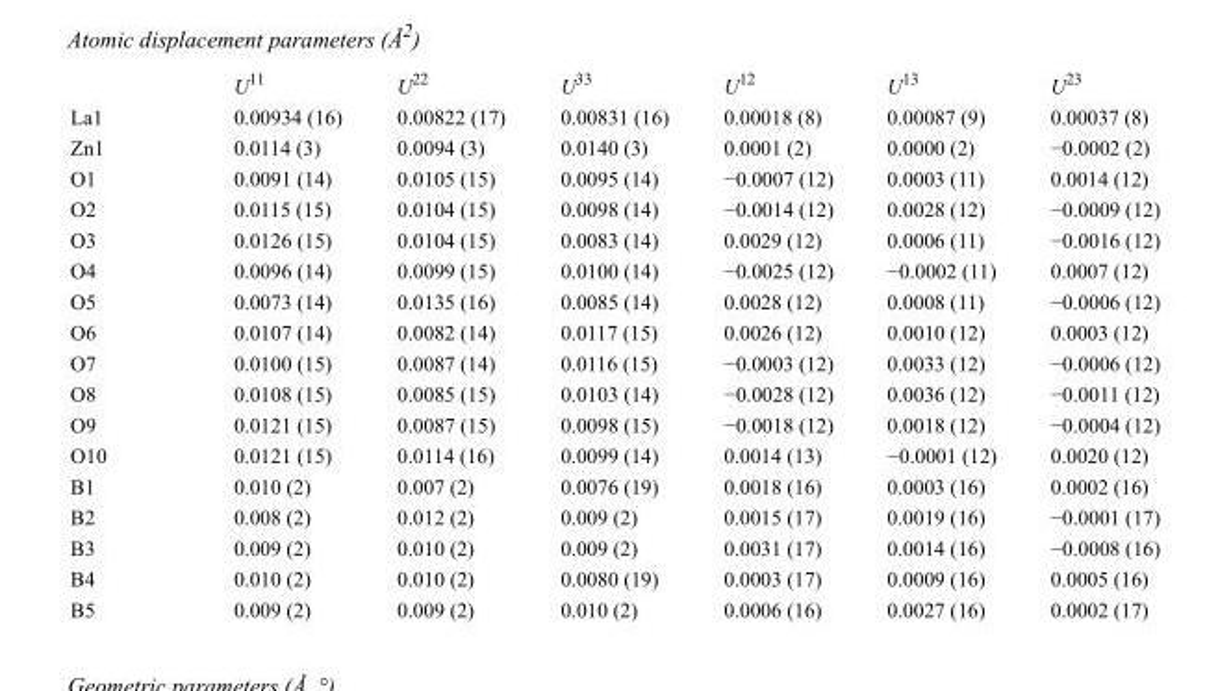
<table><thead><tr><td></td><td>U<sup>11</sup></td><td>U<sup>22</sup></td><td>U<sup>33</sup></td><td>U<sup>12</sup></td><td>U<sup>13</sup></td><td>U<sup>23</sup></td></tr></thead><tbody><tr><td>La1</td><td>0.00934 (16)</td><td>0.00822 (17)</td><td>0.00831 (16)</td><td>0.00018 (8)</td><td>0.00087 (9)</td><td>0.00037 (8)</td></tr><tr><td>Zn1</td><td>0.0114 (3)</td><td>0.0094 (3)</td><td>0.0140 (3)</td><td>0.0001 (2)</td><td>0.0000 (2)</td><td>−0.0002 (2)</td></tr><tr><td>O1</td><td>0.0091 (14)</td><td>0.0105 (15)</td><td>0.0095 (14)</td><td>−0.0007 (12)</td><td>0.0003 (11)</td><td>0.0014 (12)</td></tr><tr><td>O2</td><td>0.0115 (15)</td><td>0.0104 (15)</td><td>0.0098 (14)</td><td>−0.0014 (12)</td><td>0.0028 (12)</td><td>−0.0009 (12)</td></tr><tr><td>O3</td><td>0.0126 (15)</td><td>0.0104 (15)</td><td>0.0083 (14)</td><td>0.0029 (12)</td><td>0.0006 (11)</td><td>−0.0016 (12)</td></tr><tr><td>O4</td><td>0.0096 (14)</td><td>0.0099 (15)</td><td>0.0100 (14)</td><td>−0.0025 (12)</td><td>−0.0002 (11)</td><td>0.0007 (12)</td></tr><tr><td>O5</td><td>0.0073 (14)</td><td>0.0135 (16)</td><td>0.0085 (14)</td><td>0.0028 (12)</td><td>0.0008 (11)</td><td>−0.0006 (12)</td></tr><tr><td>O6</td><td>0.0107 (14)</td><td>0.0082 (14)</td><td>0.0117 (15)</td><td>0.0026 (12)</td><td>0.0010 (12)</td><td>0.0003 (12)</td></tr><tr><td>O7</td><td>0.0100 (15)</td><td>0.0087 (14)</td><td>0.0116 (15)</td><td>−0.0003 (12)</td><td>0.0033 (12)</td><td>−0.0006 (12)</td></tr><tr><td>O8</td><td>0.0108 (15)</td><td>0.0085 (15)</td><td>0.0103 (14)</td><td>−0.0028 (12)</td><td>0.0036 (12)</td><td>−0.0011 (12)</td></tr><tr><td>O9</td><td>0.0121 (15)</td><td>0.0087 (15)</td><td>0.0098 (15)</td><td>−0.0018 (12)</td><td>0.0018 (12)</td><td>−0.0004 (12)</td></tr><tr><td>O10</td><td>0.0121 (15)</td><td>0.0114 (16)</td><td>0.0099 (14)</td><td>0.0014 (13)</td><td>−0.0001 (12)</td><td>0.0020 (12)</td></tr><tr><td>B1</td><td>0.010 (2)</td><td>0.007 (2)</td><td>0.0076 (19)</td><td>0.0018 (16)</td><td>0.0003 (16)</td><td>0.0002 (16)</td></tr><tr><td>B2</td><td>0.008 (2)</td><td>0.012 (2)</td><td>0.009 (2)</td><td>0.0015 (17)</td><td>0.0019 (16)</td><td>−0.0001 (17)</td></tr><tr><td>B3</td><td>0.009 (2)</td><td>0.010 (2)</td><td>0.009 (2)</td><td>0.0031 (17)</td><td>0.0014 (16)</td><td>−0.0008 (16)</td></tr><tr><td>B4</td><td>0.010 (2)</td><td>0.010 (2)</td><td>0.0080 (19)</td><td>0.0003 (17)</td><td>0.0009 (16)</td><td>0.0005 (16)</td></tr><tr><td>B5</td><td>0.009 (2)</td><td>0.009 (2)</td><td>0.010 (2)</td><td>0.0006 (16)</td><td>0.0027 (16)</td><td>0.0002 (17)</td></tr></tbody></table>